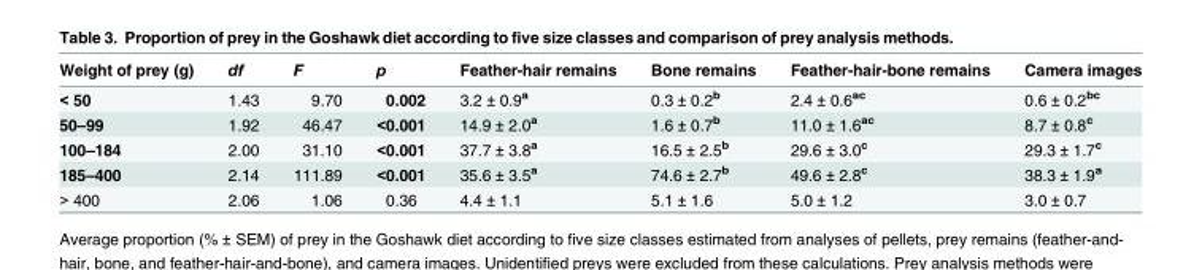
<table><thead><tr><td>Weight of prey (g)</td><td>df</td><td>F</td><td>p</td><td>Feather-hair remains</td><td>Bone remains</td><td>Feather-hair-bone remains</td><td>Camera images</td></tr></thead><tbody><tr><td>&lt; 50</td><td>1.43</td><td>9.70</td><td>0.002</td><td>3.2 ± 0.9<sup>a</sup></td><td>0.3 ± 0.2<sup>b</sup></td><td>2.4 ± 0.6<sup>ac</sup></td><td>0.6 ± 0.2<sup>bc</sup></td></tr><tr><td>50–99</td><td>1.92</td><td>46.47</td><td>&lt;0.001</td><td>14.9 ± 2.0<sup>a</sup></td><td>1.6 ± 0.7<sup>b</sup></td><td>11.0 ± 1.6<sup>ac</sup></td><td>8.7 ± 0.8<sup>c</sup></td></tr><tr><td>100–184</td><td>2.00</td><td>31.10</td><td>&lt;0.001</td><td>37.7 ± 3.8<sup>a</sup></td><td>16.5 ± 2.5<sup>b</sup></td><td>29.6 ± 3.0<sup>c</sup></td><td>29.3 ± 1.7<sup>c</sup></td></tr><tr><td>185–400</td><td>2.14</td><td>111.89</td><td>&lt;0.001</td><td>35.6 ± 3.5<sup>a</sup></td><td>74.6 ± 2.7<sup>b</sup></td><td>49.6 ± 2.8<sup>c</sup></td><td>38.3 ± 1.9<sup>a</sup></td></tr><tr><td>&gt; 400</td><td>2.06</td><td>1.06</td><td>0.36</td><td>4.4 ± 1.1</td><td>5.1 ± 1.6</td><td>5.0 ± 1.2</td><td>3.0 ± 0.7</td></tr></tbody></table>